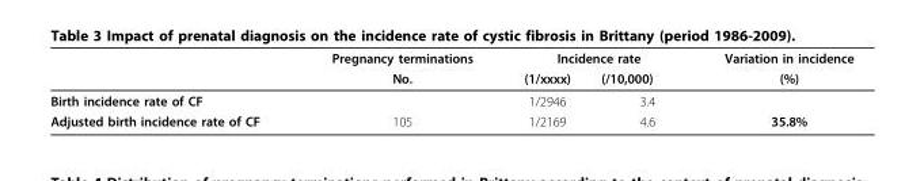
<table><thead><tr><td rowspan="2"></td><td rowspan="2">Pregnancy terminations No.</td><td colspan="2">Incidence rate</td><td rowspan="2">Variation in incidence (%)</td></tr><tr><td>(1/xxxx)</td><td>(/10,000)</td></tr></thead><tbody><tr><td>Birth incidence rate of CF</td><td></td><td>1/2946</td><td>3.4</td><td></td></tr><tr><td>Adjusted birth incidence rate of CF</td><td>105</td><td>1/2169</td><td>4.6</td><td>35.8%</td></tr></tbody></table>